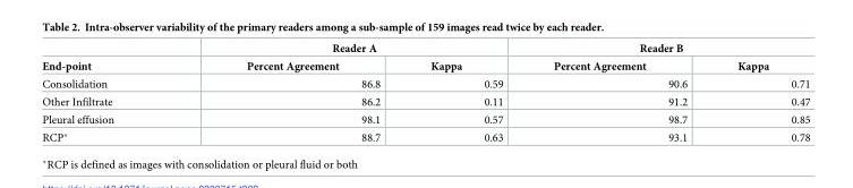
<table><thead><tr><td rowspan="2">End-point</td><td colspan="2">Reader A</td><td colspan="2">Reader B</td></tr><tr><td>Percent Agreement</td><td>Kappa</td><td>Percent Agreement</td><td>Kappa</td></tr></thead><tbody><tr><td>Consolidation</td><td>86.8</td><td>0.59</td><td>90.6</td><td>0.71</td></tr><tr><td>Other Infiltrate</td><td>86.2</td><td>0.11</td><td>91.2</td><td>0.47</td></tr><tr><td>Pleural effusion</td><td>98.1</td><td>0.57</td><td>98.7</td><td>0.85</td></tr><tr><td>RCP*</td><td>88.7</td><td>0.63</td><td>93.1</td><td>0.78</td></tr></tbody></table>